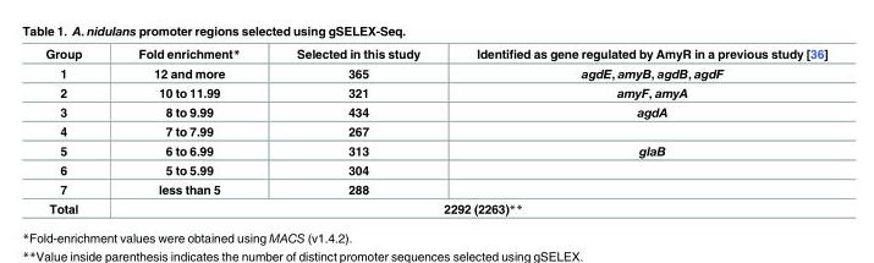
<table><thead><tr><td>Group</td><td>Fold enrichment*</td><td>Selected in this study</td><td>Identified as gene regulated by AmyR in a previous study [36]</td></tr></thead><tbody><tr><td>1</td><td>12 and more</td><td>365</td><td>agdE, amyB, agdB, agdF</td></tr><tr><td>2</td><td>10 to 11.99</td><td>321</td><td>amyF, amyA</td></tr><tr><td>3</td><td>8 to 9.99</td><td>434</td><td>agdA</td></tr><tr><td>4</td><td>7 to 7.99</td><td>267</td><td></td></tr><tr><td>5</td><td>6 to 6.99</td><td>313</td><td>glaB</td></tr><tr><td>6</td><td>5 to 5.99</td><td>304</td><td></td></tr><tr><td>7</td><td>less than 5</td><td>288</td><td></td></tr><tr><td>Total</td><td colspan="3">2292 (2263)**</td></tr></tbody></table>